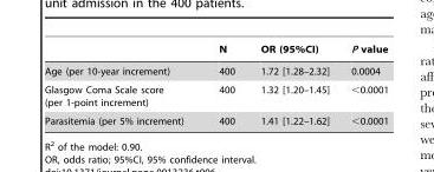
<table><thead><tr><td></td><td>N</td><td>OR (95%CI)</td><td>P value</td></tr></thead><tbody><tr><td>Age (per 10-year increment)</td><td>400</td><td>1.72 [1.28–2.32]</td><td>0.0004</td></tr><tr><td>Glasgow Coma Scale score (per 1-point increment)</td><td>400</td><td>1.32 [1.20–1.45]</td><td>&lt;0.0001</td></tr><tr><td>Parasitemia (per 5% increment)</td><td>400</td><td>1.41 [1.22–1.62]</td><td>&lt;0.0001</td></tr></tbody></table>